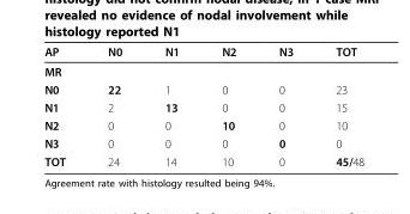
<table><thead><tr><td>AP</td><td>N0</td><td>N1</td><td>N2</td><td>N3</td><td>TOT</td></tr></thead><tbody><tr><td colspan="6">MR</td></tr><tr><td>N0</td><td>22</td><td>1</td><td>0</td><td>0</td><td>23</td></tr><tr><td>N1</td><td>2</td><td>13</td><td>0</td><td>0</td><td>15</td></tr><tr><td>N2</td><td>0</td><td>0</td><td>10</td><td>0</td><td>10</td></tr><tr><td>N3</td><td>0</td><td>0</td><td>0</td><td>0</td><td>0</td></tr><tr><td>TOT</td><td>24</td><td>14</td><td>10</td><td>0</td><td>45/48</td></tr></tbody></table>